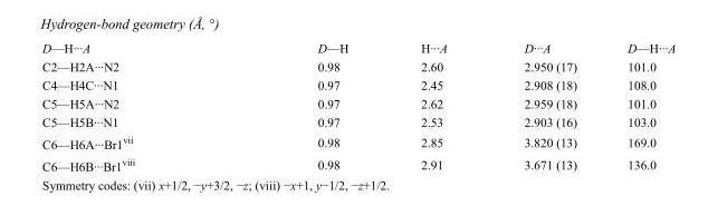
<table><tbody><tr><td>D—H···A</td><td>D—H</td><td>H···A</td><td>D···A</td><td>D—H···A</td></tr><tr><td>C2—H2A···N2</td><td>0.98</td><td>2.60</td><td>2.950 (17)</td><td>101.0</td></tr><tr><td>C4—H4C···N1</td><td>0.97</td><td>2.45</td><td>2.908 (18)</td><td>108.0</td></tr><tr><td>C5—H5A···N2</td><td>0.97</td><td>2.62</td><td>2.959 (18)</td><td>101.0</td></tr><tr><td>C5—H5B···N1</td><td>0.97</td><td>2.53</td><td>2.903 (16)</td><td>103.0</td></tr><tr><td>C6—H6A···Br1<sup>vii</sup></td><td>0.98</td><td>2.85</td><td>3.820 (13)</td><td>169.0</td></tr><tr><td>C6—H6B···Br1<sup>viii</sup></td><td>0.98</td><td>2.91</td><td>3.671 (13)</td><td>136.0</td></tr></tbody></table>